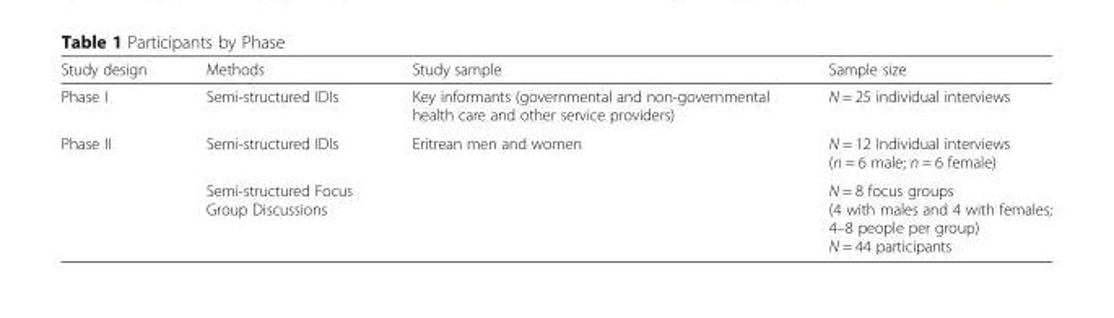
<table><thead><tr><td>Study design</td><td>Methods</td><td>Study sample</td><td>Sample size</td></tr></thead><tbody><tr><td>Phase I</td><td>Semi-structured IDIs</td><td>Key informants (governmental and non-governmental health care and other service providers)</td><td>N = 25 individual interviews</td></tr><tr><td rowspan="2">Phase II</td><td>Semi-structured IDIs</td><td>Eritrean men and women</td><td>N = 12 Individual interviews (n = 6 male; n = 6 female)</td></tr><tr><td>Semi-structured Focus Group Discussions</td><td></td><td>N = 8 focus groups (4 with males and 4 with females; 4–8 people per group) N = 44 participants</td></tr></tbody></table>